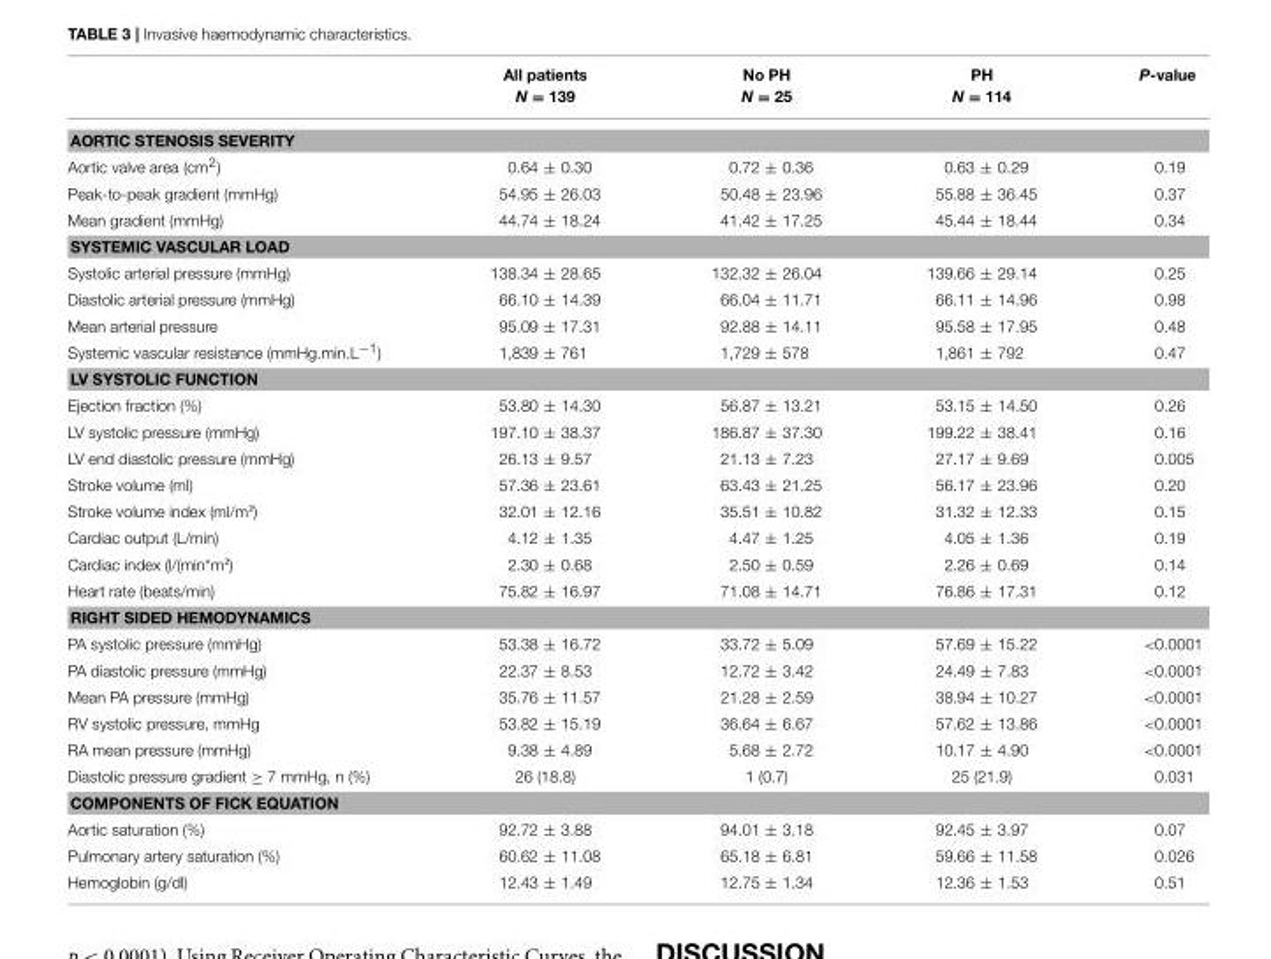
<table><thead><tr><td></td><td>All patients N = 139</td><td>No PH N = 25</td><td>PH N = 114</td><td>P-value</td></tr></thead><tbody><tr><td colspan="5">AORTIC STENOSIS SEVERITY</td></tr><tr><td>Aortic valve area (cm<sup>2</sup>)</td><td>0.64 ± 0.30</td><td>0.72 ± 0.36</td><td>0.63 ± 0.29</td><td>0.19</td></tr><tr><td>Peak-to-peak gradient (mmHg)</td><td>54.95 ± 26.03</td><td>50.48 ± 23.96</td><td>55.88 ± 36.45</td><td>0.37</td></tr><tr><td>Mean gradient (mmHg)</td><td>44.74 ± 18.24</td><td>41.42 ± 17.25</td><td>45.44 ± 18.44</td><td>0.34</td></tr><tr><td colspan="5">SYSTEMIC VASCULAR LOAD</td></tr><tr><td>Systolic arterial pressure (mmHg)</td><td>138.34 ± 28.65</td><td>132.32 ± 26.04</td><td>139.66 ± 29.14</td><td>0.25</td></tr><tr><td>Diastolic arterial pressure (mmHg)</td><td>66.10 ± 14.39</td><td>66.04 ± 11.71</td><td>66.11 ± 14.96</td><td>0.98</td></tr><tr><td>Mean arterial pressure</td><td>95.09 ± 17.31</td><td>92.88 ± 14.11</td><td>95.58 ± 17.95</td><td>0.48</td></tr><tr><td>Systemic vascular resistance (mmHg.min.L<sup>−1</sup>)</td><td>1,839 ± 761</td><td>1,729 ± 578</td><td>1,861 ± 792</td><td>0.47</td></tr><tr><td colspan="5">LV SYSTOLIC FUNCTION</td></tr><tr><td>Ejection fraction (%)</td><td>53.80 ± 14.30</td><td>56.87 ± 13.21</td><td>53.15 ± 14.50</td><td>0.26</td></tr><tr><td>LV systolic pressure (mmHg)</td><td>197.10 ± 38.37</td><td>186.87 ± 37.30</td><td>199.22 ± 38.41</td><td>0.16</td></tr><tr><td>LV end diastolic pressure (mmHg)</td><td>26.13 ± 9.57</td><td>21.13 ± 7.23</td><td>27.17 ± 9.69</td><td>0.005</td></tr><tr><td>Stroke volume (ml)</td><td>57.36 ± 23.61</td><td>63.43 ± 21.25</td><td>56.17 ± 23.96</td><td>0.20</td></tr><tr><td>Stroke volume index (ml/m²)</td><td>32.01 ± 12.16</td><td>35.51 ± 10.82</td><td>31.32 ± 12.33</td><td>0.15</td></tr><tr><td>Cardiac output (L/min)</td><td>4.12 ± 1.35</td><td>4.47 ± 1.25</td><td>4.05 ± 1.36</td><td>0.19</td></tr><tr><td>Cardiac index (l/(min*m²)</td><td>2.30 ± 0.68</td><td>2.50 ± 0.59</td><td>2.26 ± 0.69</td><td>0.14</td></tr><tr><td>Heart rate (beats/min)</td><td>75.82 ± 16.97</td><td>71.08 ± 14.71</td><td>76.86 ± 17.31</td><td>0.12</td></tr><tr><td colspan="5">RIGHT SIDED HEMODYNAMICS</td></tr><tr><td>PA systolic pressure (mmHg)</td><td>53.38 ± 16.72</td><td>33.72 ± 5.09</td><td>57.69 ± 15.22</td><td>&lt;0.0001</td></tr><tr><td>PA diastolic pressure (mmHg)</td><td>22.37 ± 8.53</td><td>12.72 ± 3.42</td><td>24.49 ± 7.83</td><td>&lt;0.0001</td></tr><tr><td>Mean PA pressure (mmHg)</td><td>35.76 ± 11.57</td><td>21.28 ± 2.59</td><td>38.94 ± 10.27</td><td>&lt;0.0001</td></tr><tr><td>RV systolic pressure, mmHg</td><td>53.82 ± 15.19</td><td>36.64 ± 6.67</td><td>57.62 ± 13.86</td><td>&lt;0.0001</td></tr><tr><td>RA mean pressure (mmHg)</td><td>9.38 ± 4.89</td><td>5.68 ± 2.72</td><td>10.17 ± 4.90</td><td>&lt;0.0001</td></tr><tr><td>Diastolic pressure gradient ≥ 7 mmHg, n (%)</td><td>26 (18.8)</td><td>1 (0.7)</td><td>25 (21.9)</td><td>0.031</td></tr><tr><td colspan="5">COMPONENTS OF FICK EQUATION</td></tr><tr><td>Aortic saturation (%)</td><td>92.72 ± 3.88</td><td>94.01 ± 3.18</td><td>92.45 ± 3.97</td><td>0.07</td></tr><tr><td>Pulmonary artery saturation (%)</td><td>60.62 ± 11.08</td><td>65.18 ± 6.81</td><td>59.66 ± 11.58</td><td>0.026</td></tr><tr><td>Hemoglobin (g/dl)</td><td>12.43 ± 1.49</td><td>12.75 ± 1.34</td><td>12.36 ± 1.53</td><td>0.51</td></tr></tbody></table>